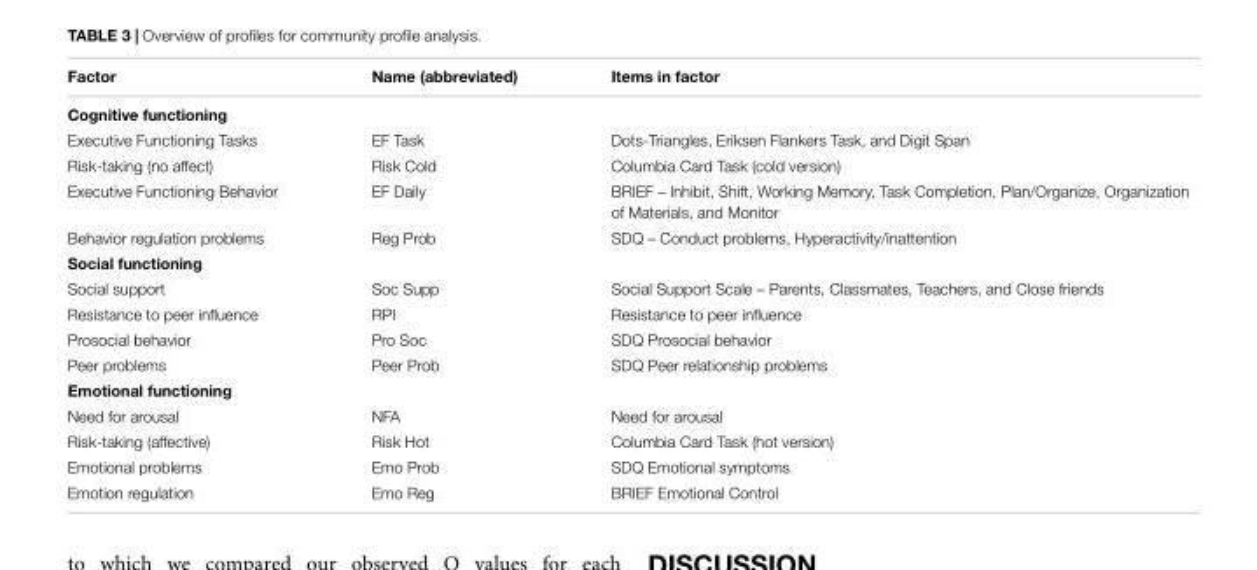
<table><thead><tr><td>Factor</td><td>Name (abbreviated)</td><td>Items in factor</td></tr></thead><tbody><tr><td colspan="3">Cognitive functioning</td></tr><tr><td>Executive Functioning Tasks</td><td>EF Task</td><td>Dots-Triangles, Eriksen Flankers Task, and Digit Span</td></tr><tr><td>Risk-taking (no affect)</td><td>Risk Cold</td><td>Columbia Card Task (cold version)</td></tr><tr><td>Executive Functioning Behavior</td><td>EF Daily</td><td>BRIEF – Inhibit, Shift, Working Memory, Task Completion, Plan/Organize, Organization of Materials, and Monitor</td></tr><tr><td>Behavior regulation problems</td><td>Reg Prob</td><td>SDQ – Conduct problems, Hyperactivity/inattention</td></tr><tr><td colspan="3">Social functioning</td></tr><tr><td>Social support</td><td>Soc Supp</td><td>Social Support Scale – Parents, Classmates, Teachers, and Close friends</td></tr><tr><td>Resistance to peer influence</td><td>RPI</td><td>Resistance to peer influence</td></tr><tr><td>Prosocial behavior</td><td>Pro Soc</td><td>SDQ Prosocial behavior</td></tr><tr><td>Peer problems</td><td>Peer Prob</td><td>SDQ Peer relationship problems</td></tr><tr><td colspan="3">Emotional functioning</td></tr><tr><td>Need for arousal</td><td>NFA</td><td>Need for arousal</td></tr><tr><td>Risk-taking (affective)</td><td>Risk Hot</td><td>Columbia Card Task (hot version)</td></tr><tr><td>Emotional problems</td><td>Emo Prob</td><td>SDQ Emotional symptoms</td></tr><tr><td>Emotion regulation</td><td>Emo Reg</td><td>BRIEF Emotional Control</td></tr></tbody></table>